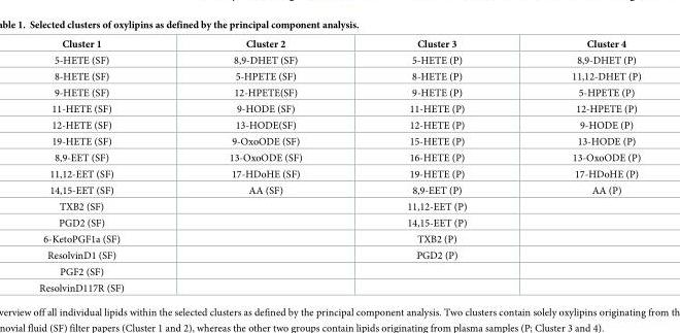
<table><thead><tr><td>Cluster 1</td><td>Cluster 2</td><td>Cluster 3</td><td>Cluster 4</td></tr></thead><tbody><tr><td>5-HETE (SF)</td><td>8,9-DHET (SF)</td><td>5-HETE (P)</td><td>8,9-DHET (P)</td></tr><tr><td>8-HETE (SF)</td><td>5-HPETE (SF)</td><td>8-HETE (P)</td><td>11,12-DHET (P)</td></tr><tr><td>9-HETE (SF)</td><td>12-HPETE(SF)</td><td>9-HETE (P)</td><td>5-HPETE (P)</td></tr><tr><td>11-HETE (SF)</td><td>9-HODE (SF)</td><td>11-HETE (P)</td><td>12-HPETE (P)</td></tr><tr><td>12-HETE (SF)</td><td>13-HODE(SF)</td><td>12-HETE (P)</td><td>9-HODE (P)</td></tr><tr><td>19-HETE (SF)</td><td>9-OxoODE (SF)</td><td>15-HETE (P)</td><td>13-HODE (P)</td></tr><tr><td>8,9-EET (SF)</td><td>13-OxoODE (SF)</td><td>16-HETE (P)</td><td>13-OxoODE (P)</td></tr><tr><td>11,12-EET (SF)</td><td>17-HDoHE (SF)</td><td>19-HETE (P)</td><td>17-HDoHE (P)</td></tr><tr><td>14,15-EET (SF)</td><td>AA (SF)</td><td>8,9-EET (P)</td><td>AA (P)</td></tr><tr><td>TXB2 (SF)</td><td></td><td>11,12-EET (P)</td><td></td></tr><tr><td>PGD2 (SF)</td><td></td><td>14,15-EET (P)</td><td></td></tr><tr><td>6-KetoPGF1a (SF)</td><td></td><td>TXB2 (P)</td><td></td></tr><tr><td>ResolvinD1 (SF)</td><td></td><td>PGD2 (P)</td><td></td></tr><tr><td colspan="4">PGF2 (SF)</td></tr><tr><td>ResolvinD117R (SF)</td><td></td><td></td><td></td></tr></tbody></table>